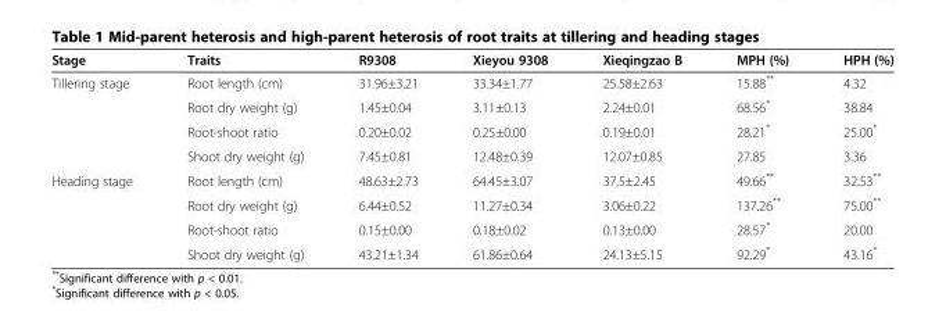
<table><thead><tr><td>Stage</td><td>Traits</td><td>R9308</td><td>Xieyou 9308</td><td>Xieqingzao B</td><td>MPH (%)</td><td>HPH (%)</td></tr></thead><tbody><tr><td rowspan="4">Tillering stage</td><td>Root length (cm)</td><td>31.96±3.21</td><td>33.34±1.77</td><td>25.58±2.63</td><td>15.88**</td><td>4.32</td></tr><tr><td>Root dry weight (g)</td><td>1.45±0.04</td><td>3.11±0.13</td><td>2.24±0.01</td><td>68.56*</td><td>38.84</td></tr><tr><td>Root-shoot ratio</td><td>0.20±0.02</td><td>0.25±0.00</td><td>0.19±0.01</td><td>28.21*</td><td>25.00*</td></tr><tr><td>Shoot dry weight (g)</td><td>7.45±0.81</td><td>12.48±0.39</td><td>12.07±0.85</td><td>27.85</td><td>3.36</td></tr><tr><td rowspan="4">Heading stage</td><td>Root length (cm)</td><td>48.63±2.73</td><td>64.45±3.07</td><td>37.5±2.45</td><td>49.66**</td><td>32.53**</td></tr><tr><td>Root dry weight (g)</td><td>6.44±0.52</td><td>11.27±0.34</td><td>3.06±0.22</td><td>137.26**</td><td>75.00**</td></tr><tr><td>Root-shoot ratio</td><td>0.15±0.00</td><td>0.18±0.02</td><td>0.13±0.00</td><td>28.57*</td><td>20.00</td></tr><tr><td>Shoot dry weight (g)</td><td>43.21±1.34</td><td>61.86±0.64</td><td>24.13±5.15</td><td>92.29*</td><td>43.16*</td></tr></tbody></table>